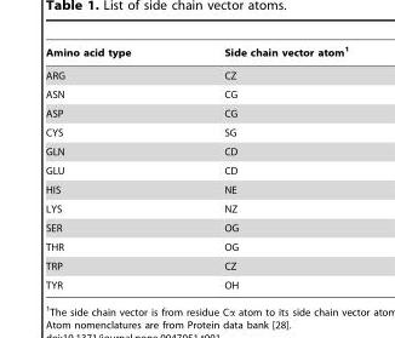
<table><thead><tr><td>Amino acid type</td><td>Side chain vector atom<sup>1</sup></td></tr></thead><tbody><tr><td>ARG</td><td>CZ</td></tr><tr><td>ASN</td><td>CG</td></tr><tr><td>ASP</td><td>CG</td></tr><tr><td>CYS</td><td>SG</td></tr><tr><td>GLN</td><td>CD</td></tr><tr><td>GLU</td><td>CD</td></tr><tr><td>HIS</td><td>NE</td></tr><tr><td>LYS</td><td>NZ</td></tr><tr><td>SER</td><td>OG</td></tr><tr><td>THR</td><td>OG</td></tr><tr><td>TRP</td><td>CZ</td></tr><tr><td>TYR</td><td>OH</td></tr></tbody></table>